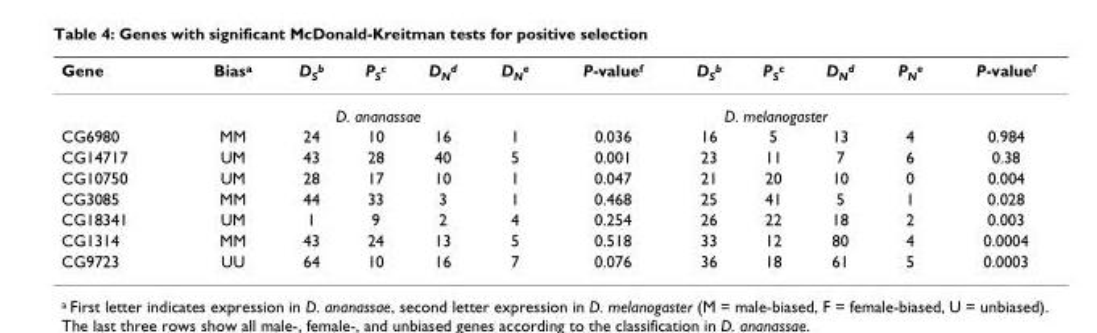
<table><thead><tr><td>Gene</td><td>Bias<sup>a</sup></td><td>D<sub>S</sub><sup>b</sup></td><td>P<sub>S</sub><sup>c</sup></td><td>D<sub>N</sub><sup>d</sup></td><td>D<sub>N</sub><sup>e</sup></td><td>P-value<sup>f</sup></td><td>D<sub>S</sub><sup>b</sup></td><td>P<sub>S</sub><sup>c</sup></td><td>D<sub>N</sub><sup>d</sup></td><td>P<sub>N</sub><sup>e</sup></td><td>P-value<sup>f</sup></td></tr></thead><tbody><tr><td></td><td></td><td colspan="3">D. ananassae</td><td></td><td></td><td colspan="3">D. melanogaster</td><td></td><td></td></tr><tr><td>CG6980</td><td>MM</td><td>24</td><td>10</td><td>16</td><td>1</td><td>0.036</td><td>16</td><td>5</td><td>13</td><td>4</td><td>0.984</td></tr><tr><td>CG14717</td><td>UM</td><td>43</td><td>28</td><td>40</td><td>5</td><td>0.001</td><td>23</td><td>11</td><td>7</td><td>6</td><td>0.38</td></tr><tr><td>CG10750</td><td>UM</td><td>28</td><td>17</td><td>10</td><td>1</td><td>0.047</td><td>21</td><td>20</td><td>10</td><td>0</td><td>0.004</td></tr><tr><td>CG3085</td><td>MM</td><td>44</td><td>33</td><td>3</td><td>1</td><td>0.468</td><td>25</td><td>41</td><td>5</td><td>1</td><td>0.028</td></tr><tr><td>CG18341</td><td>UM</td><td>1</td><td>9</td><td>2</td><td>4</td><td>0.254</td><td>26</td><td>22</td><td>18</td><td>2</td><td>0.003</td></tr><tr><td>CG1314</td><td>MM</td><td>43</td><td>24</td><td>13</td><td>5</td><td>0.518</td><td>33</td><td>12</td><td>80</td><td>4</td><td>0.0004</td></tr><tr><td>CG9723</td><td>UU</td><td>64</td><td>10</td><td>16</td><td>7</td><td>0.076</td><td>36</td><td>18</td><td>61</td><td>5</td><td>0.0003</td></tr></tbody></table>